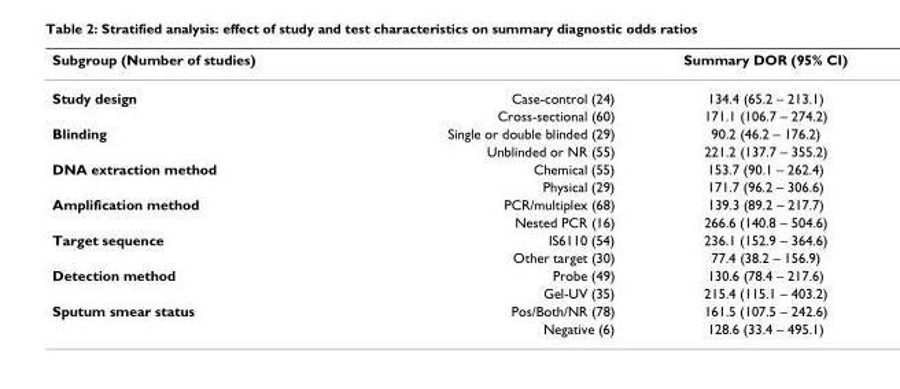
<table><thead><tr><td>Subgroup (Number of studies)</td><td></td><td>Summary DOR (95% CI)</td></tr></thead><tbody><tr><td rowspan="2">Study design</td><td>Case-control (24)</td><td>134.4 (65.2 – 213.1)</td></tr><tr><td>Cross-sectional (60)</td><td>171.1 (106.7 – 274.2)</td></tr><tr><td rowspan="2">Blinding</td><td>Single or double blinded (29)</td><td>90.2 (46.2 – 176.2)</td></tr><tr><td>Unblinded or NR (55)</td><td>221.2 (137.7 – 355.2)</td></tr><tr><td rowspan="2">DNA extraction method</td><td>Chemical (55)</td><td>153.7 (90.1 – 262.4)</td></tr><tr><td>Physical (29)</td><td>171.7 (96.2 – 306.6)</td></tr><tr><td rowspan="2">Amplification method</td><td>PCR/multiplex (68)</td><td>139.3 (89.2 – 217.7)</td></tr><tr><td>Nested PCR (16)</td><td>266.6 (140.8 – 504.6)</td></tr><tr><td rowspan="2">Target sequence</td><td>IS6110 (54)</td><td>236.1 (152.9 – 364.6)</td></tr><tr><td>Other target (30)</td><td>77.4 (38.2 – 156.9)</td></tr><tr><td rowspan="2">Detection method</td><td>Probe (49)</td><td>130.6 (78.4 – 217.6)</td></tr><tr><td>Gel-UV (35)</td><td>215.4 (115.1 – 403.2)</td></tr><tr><td rowspan="2">Sputum smear status</td><td>Pos/Both/NR (78)</td><td>161.5 (107.5 – 242.6)</td></tr><tr><td>Negative (6)</td><td>128.6 (33.4 – 495.1)</td></tr></tbody></table>